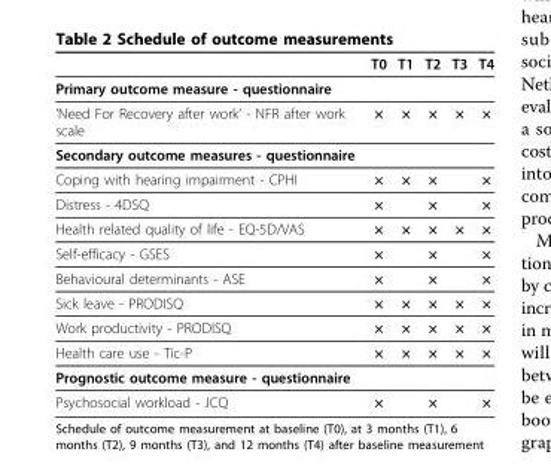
<table><thead><tr><td></td><td>T0</td><td>T1</td><td>T2</td><td>T3</td><td>T4</td></tr></thead><tbody><tr><td colspan="6">Primary outcome measure - questionnaire</td></tr><tr><td>’Need For Recovery after work’ - NFR after work scale</td><td>×</td><td>×</td><td>×</td><td>×</td><td>×</td></tr><tr><td colspan="6">Secondary outcome measures - questionnaire</td></tr><tr><td>Coping with hearing impairment - CPHI</td><td>×</td><td>×</td><td>×</td><td></td><td>×</td></tr><tr><td>Distress - 4DSQ</td><td>×</td><td></td><td>×</td><td></td><td>×</td></tr><tr><td>Health related quality of life - EQ-5D/VAS</td><td>×</td><td>×</td><td>×</td><td>×</td><td>×</td></tr><tr><td>Self-efficacy - GSES</td><td>×</td><td></td><td>×</td><td></td><td>×</td></tr><tr><td>Behavioural determinants - ASE</td><td>×</td><td></td><td>×</td><td></td><td>×</td></tr><tr><td>Sick leave - PRODISQ</td><td>×</td><td>×</td><td>×</td><td>×</td><td>×</td></tr><tr><td>Work productivity - PRODISQ</td><td>×</td><td>×</td><td>×</td><td>×</td><td>×</td></tr><tr><td>Health care use - Tic-P</td><td>×</td><td>×</td><td>×</td><td>×</td><td>×</td></tr><tr><td colspan="6">Prognostic outcome measure - questionnaire</td></tr><tr><td>Psychosocial workload - JCQ</td><td>×</td><td></td><td>×</td><td></td><td>×</td></tr></tbody></table>